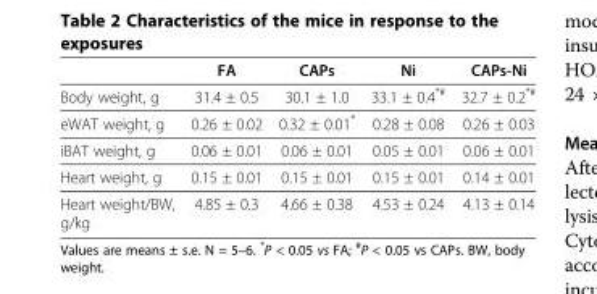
<table><thead><tr><td></td><td>FA</td><td>CAPs</td><td>Ni</td><td>CAPs-Ni</td></tr></thead><tbody><tr><td>Body weight, g</td><td>31.4 ± 0.5</td><td>30.1 ± 1.0</td><td>33.1 ± 0.4<sup>*#</sup></td><td>32.7 ± 0.2<sup>*#</sup></td></tr><tr><td>eWAT weight, g</td><td>0.26 ± 0.02</td><td>0.32 ± 0.01*</td><td>0.28 ± 0.08</td><td>0.26 ± 0.03</td></tr><tr><td>iBAT weight, g</td><td>0.06 ± 0.01</td><td>0.06 ± 0.01</td><td>0.05 ± 0.01</td><td>0.06 ± 0.01</td></tr><tr><td>Heart weight, g</td><td>0.15 ± 0.01</td><td>0.15 ± 0.01</td><td>0.15 ± 0.01</td><td>0.14 ± 0.01</td></tr><tr><td>Heart weight/BW, g/kg</td><td>4.85 ± 0.3</td><td>4.66 ± 0.38</td><td>4.53 ± 0.24</td><td>4.13 ± 0.14</td></tr></tbody></table>